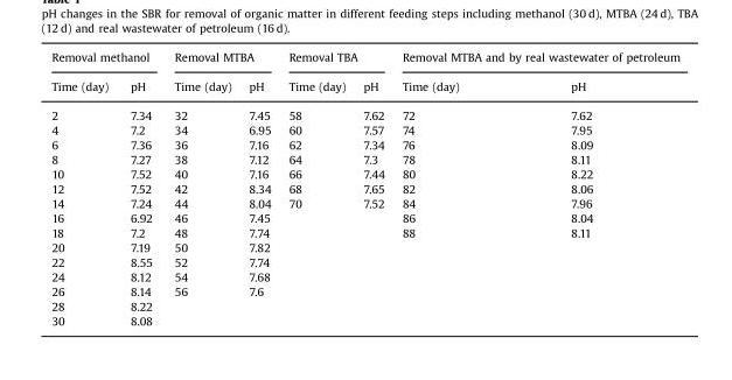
<table><thead><tr><td colspan="2">Removal methanol</td><td colspan="2">Removal MTBA</td><td colspan="2">Removal TBA</td><td colspan="2">Removal MTBA and by real wastewater of petroleum</td></tr><tr><td>Time (day)</td><td>pH</td><td>Time (day)</td><td>pH</td><td>Time (day)</td><td>pH</td><td>Time (day)</td><td>pH</td></tr></thead><tbody><tr><td>2</td><td>7.34</td><td>32</td><td>7.45</td><td>58</td><td>7.62</td><td>72</td><td>7.62</td></tr><tr><td>4</td><td>7.2</td><td>34</td><td>6.95</td><td>60</td><td>7.57</td><td>74</td><td>7.95</td></tr><tr><td>6</td><td>7.36</td><td>36</td><td>7.16</td><td>62</td><td>7.34</td><td>76</td><td>8.09</td></tr><tr><td>8</td><td>7.27</td><td>38</td><td>7.12</td><td>64</td><td>7.3</td><td>78</td><td>8.11</td></tr><tr><td>10</td><td>7.52</td><td>40</td><td>7.16</td><td>66</td><td>7.44</td><td>80</td><td>8.22</td></tr><tr><td>12</td><td>7.52</td><td>42</td><td>8.34</td><td>68</td><td>7.65</td><td>82</td><td>8.06</td></tr><tr><td>14</td><td>7.24</td><td>44</td><td>8.04</td><td>70</td><td>7.52</td><td>84</td><td>7.96</td></tr><tr><td>16</td><td>6.92</td><td>46</td><td>7.45</td><td></td><td></td><td>86</td><td>8.04</td></tr><tr><td>18</td><td>7.2</td><td>48</td><td>7.74</td><td></td><td></td><td>88</td><td>8.11</td></tr><tr><td>20</td><td>7.19</td><td>50</td><td>7.82</td><td></td><td></td><td></td><td></td></tr><tr><td>22</td><td>8.55</td><td>52</td><td>7.74</td><td></td><td></td><td></td><td></td></tr><tr><td>24</td><td>8.12</td><td>54</td><td>7.68</td><td></td><td></td><td></td><td></td></tr><tr><td>26</td><td>8.14</td><td>56</td><td>7.6</td><td></td><td></td><td></td><td></td></tr><tr><td>28</td><td>8.22</td><td></td><td></td><td></td><td></td><td></td><td></td></tr><tr><td>30</td><td>8.08</td><td></td><td></td><td></td><td></td><td></td><td></td></tr></tbody></table>